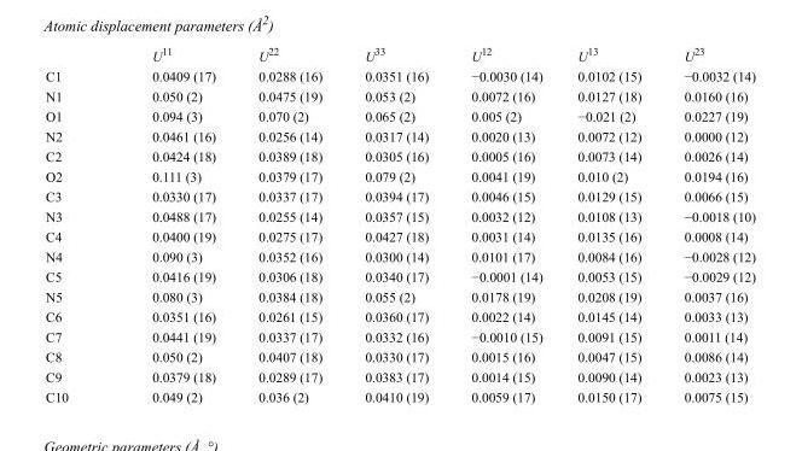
<table><thead><tr><td></td><td>U<sup>11</sup></td><td>U<sup>22</sup></td><td>U<sup>33</sup></td><td>U<sup>12</sup></td><td>U<sup>13</sup></td><td>U<sup>23</sup></td></tr></thead><tbody><tr><td>C1</td><td>0.0409 (17)</td><td>0.0288 (16)</td><td>0.0351 (16)</td><td>−0.0030 (14)</td><td>0.0102 (15)</td><td>−0.0032 (14)</td></tr><tr><td>N1</td><td>0.050 (2)</td><td>0.0475 (19)</td><td>0.053 (2)</td><td>0.0072 (16)</td><td>0.0127 (18)</td><td>0.0160 (16)</td></tr><tr><td>O1</td><td>0.094 (3)</td><td>0.070 (2)</td><td>0.065 (2)</td><td>0.005 (2)</td><td>−0.021 (2)</td><td>0.0227 (19)</td></tr><tr><td>N2</td><td>0.0461 (16)</td><td>0.0256 (14)</td><td>0.0317 (14)</td><td>0.0020 (13)</td><td>0.0072 (12)</td><td>0.0000 (12)</td></tr><tr><td>C2</td><td>0.0424 (18)</td><td>0.0389 (18)</td><td>0.0305 (16)</td><td>0.0005 (16)</td><td>0.0073 (14)</td><td>0.0026 (14)</td></tr><tr><td>O2</td><td>0.111 (3)</td><td>0.0379 (17)</td><td>0.079 (2)</td><td>0.0041 (19)</td><td>0.010 (2)</td><td>0.0194 (16)</td></tr><tr><td>C3</td><td>0.0330 (17)</td><td>0.0337 (17)</td><td>0.0394 (17)</td><td>0.0046 (15)</td><td>0.0129 (15)</td><td>0.0066 (15)</td></tr><tr><td>N3</td><td>0.0488 (17)</td><td>0.0255 (14)</td><td>0.0357 (15)</td><td>0.0032 (12)</td><td>0.0108 (13)</td><td>−0.0018 (10)</td></tr><tr><td>C4</td><td>0.0400 (19)</td><td>0.0275 (17)</td><td>0.0427 (18)</td><td>0.0031 (14)</td><td>0.0135 (16)</td><td>0.0008 (14)</td></tr><tr><td>N4</td><td>0.090 (3)</td><td>0.0352 (16)</td><td>0.0300 (14)</td><td>0.0101 (17)</td><td>0.0084 (16)</td><td>−0.0028 (12)</td></tr><tr><td>C5</td><td>0.0416 (19)</td><td>0.0306 (18)</td><td>0.0340 (17)</td><td>−0.0001 (14)</td><td>0.0053 (15)</td><td>−0.0029 (12)</td></tr><tr><td>N5</td><td>0.080 (3)</td><td>0.0384 (18)</td><td>0.055 (2)</td><td>0.0178 (19)</td><td>0.0208 (19)</td><td>0.0037 (16)</td></tr><tr><td>C6</td><td>0.0351 (16)</td><td>0.0261 (15)</td><td>0.0360 (17)</td><td>0.0022 (14)</td><td>0.0145 (14)</td><td>0.0033 (13)</td></tr><tr><td>C7</td><td>0.0441 (19)</td><td>0.0337 (17)</td><td>0.0332 (16)</td><td>−0.0010 (15)</td><td>0.0091 (15)</td><td>0.0011 (14)</td></tr><tr><td>C8</td><td>0.050 (2)</td><td>0.0407 (18)</td><td>0.0330 (17)</td><td>0.0015 (16)</td><td>0.0047 (15)</td><td>0.0086 (14)</td></tr><tr><td>C9</td><td>0.0379 (18)</td><td>0.0289 (17)</td><td>0.0383 (17)</td><td>0.0014 (15)</td><td>0.0090 (14)</td><td>0.0023 (13)</td></tr><tr><td>C10</td><td>0.049 (2)</td><td>0.036 (2)</td><td>0.0410 (19)</td><td>0.0059 (17)</td><td>0.0150 (17)</td><td>0.0075 (15)</td></tr></tbody></table>